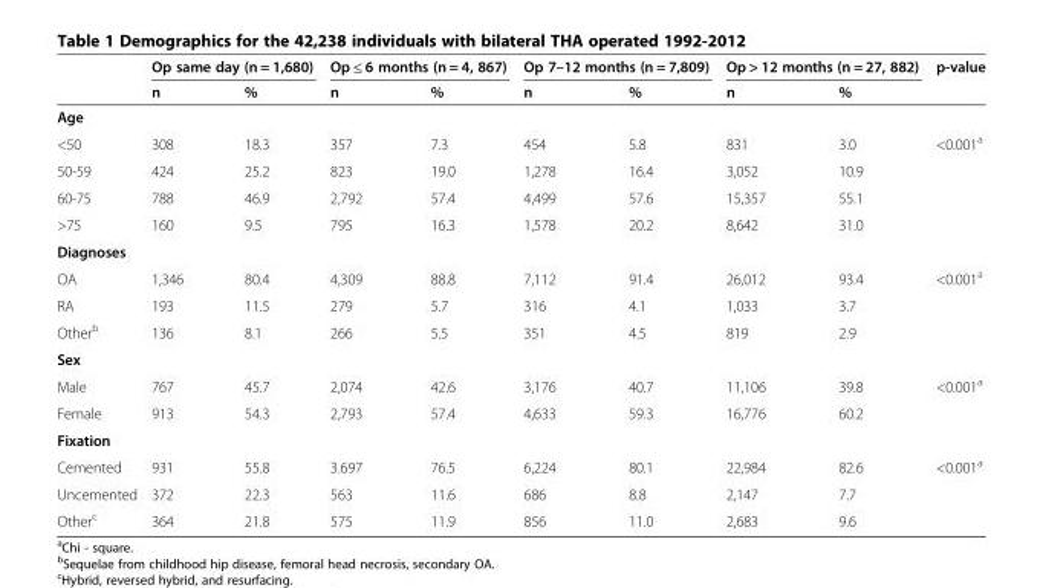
<table><thead><tr><td rowspan="2"></td><td colspan="2">Op same day (n = 1,680)</td><td colspan="2">Op ≤ 6 months (n = 4, 867)</td><td colspan="2">Op 7–12 months (n = 7,809)</td><td colspan="2">Op &gt; 12 months (n = 27, 882)</td><td rowspan="2">p-value</td></tr><tr><td>n</td><td>%</td><td>n</td><td>%</td><td>n</td><td>%</td><td>n</td><td>%</td></tr></thead><tbody><tr><td colspan="10">Age</td></tr><tr><td>&lt;50</td><td>308</td><td>18.3</td><td>357</td><td>7.3</td><td>454</td><td>5.8</td><td>831</td><td>3.0</td><td rowspan="4">&lt;0.001<sup>a</sup></td></tr><tr><td>50-59</td><td>424</td><td>25.2</td><td>823</td><td>19.0</td><td>1,278</td><td>16.4</td><td>3,052</td><td>10.9</td></tr><tr><td>60-75</td><td>788</td><td>46.9</td><td>2,792</td><td>57.4</td><td>4,499</td><td>57.6</td><td>15,357</td><td>55.1</td></tr><tr><td>&gt;75</td><td>160</td><td>9.5</td><td>795</td><td>16.3</td><td>1,578</td><td>20.2</td><td>8,642</td><td>31.0</td></tr><tr><td colspan="10">Diagnoses</td></tr><tr><td>OA</td><td>1,346</td><td>80.4</td><td>4,309</td><td>88.8</td><td>7,112</td><td>91.4</td><td>26,012</td><td>93.4</td><td rowspan="3">&lt;0.001<sup>a</sup></td></tr><tr><td>RA</td><td>193</td><td>11.5</td><td>279</td><td>5.7</td><td>316</td><td>4.1</td><td>1,033</td><td>3.7</td></tr><tr><td>Other<sup>b</sup></td><td>136</td><td>8.1</td><td>266</td><td>5.5</td><td>351</td><td>4.5</td><td>819</td><td>2.9</td></tr><tr><td colspan="10">Sex</td></tr><tr><td>Male</td><td>767</td><td>45.7</td><td>2,074</td><td>42.6</td><td>3,176</td><td>40.7</td><td>11,106</td><td>39.8</td><td rowspan="2">&lt;0.001<sup>a</sup></td></tr><tr><td>Female</td><td>913</td><td>54.3</td><td>2,793</td><td>57.4</td><td>4,633</td><td>59.3</td><td>16,776</td><td>60.2</td></tr><tr><td colspan="10">Fixation</td></tr><tr><td>Cemented</td><td>931</td><td>55.8</td><td>3.697</td><td>76.5</td><td>6,224</td><td>80.1</td><td>22,984</td><td>82.6</td><td rowspan="3">&lt;0.001<sup>a</sup></td></tr><tr><td>Uncemented</td><td>372</td><td>22.3</td><td>563</td><td>11.6</td><td>686</td><td>8.8</td><td>2,147</td><td>7.7</td></tr><tr><td>Other<sup>c</sup></td><td>364</td><td>21.8</td><td>575</td><td>11.9</td><td>856</td><td>11.0</td><td>2,683</td><td>9.6</td></tr></tbody></table>